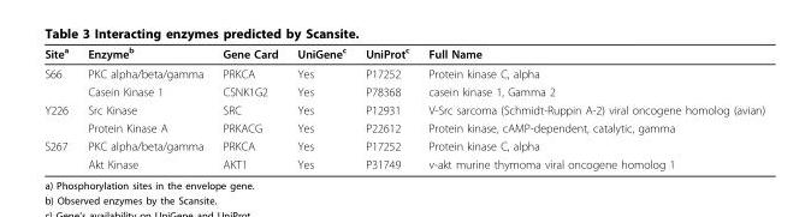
<table><thead><tr><td>Site<sup>a</sup></td><td>Enzyme<sup>b</sup></td><td>Gene Card</td><td>UniGene<sup>c</sup></td><td>UniProt<sup>c</sup></td><td>Full Name</td></tr></thead><tbody><tr><td rowspan="2">S66</td><td>PKC alpha/beta/gamma</td><td>PRKCA</td><td>Yes</td><td>P17252</td><td>Protein kinase C, alpha</td></tr><tr><td>Casein Kinase 1</td><td>CSNK1G2</td><td>Yes</td><td>P78368</td><td>casein kinase 1, Gamma 2</td></tr><tr><td rowspan="2">Y226</td><td>Src Kinase</td><td>SRC</td><td>Yes</td><td>P12931</td><td>V-Src sarcoma (Schmidt-Ruppin A-2) viral oncogene homolog (avian)</td></tr><tr><td>Protein Kinase A</td><td>PRKACG</td><td>Yes</td><td>P22612</td><td>Protein kinase, cAMP-dependent, catalytic, gamma</td></tr><tr><td rowspan="2">S267</td><td>PKC alpha/beta/gamma</td><td>PRKCA</td><td>Yes</td><td>P17252</td><td>Protein kinase C, alpha</td></tr><tr><td>Akt Kinase</td><td>AKT1</td><td>Yes</td><td>P31749</td><td>v-akt murine thymoma viral oncogene homolog 1</td></tr></tbody></table>